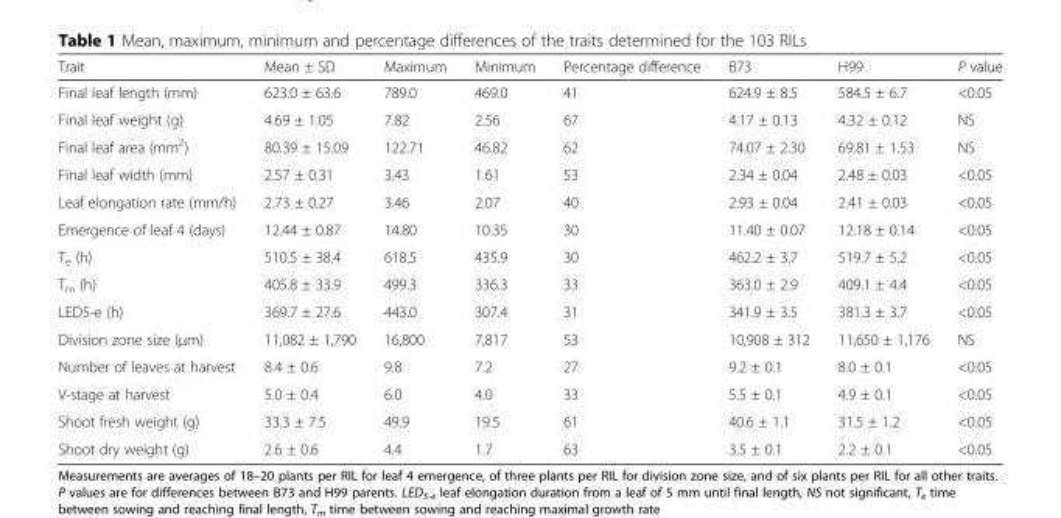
<table><thead><tr><td>Trait</td><td>Mean ± SD</td><td>Maximum</td><td>Minimum</td><td>Percentage difference</td><td>B73</td><td>H99</td><td>P value</td></tr></thead><tbody><tr><td>Final leaf length (mm)</td><td>623.0 ± 63.6</td><td>789.0</td><td>469.0</td><td>41</td><td>624.9 ± 8.5</td><td>584.5 ± 6.7</td><td>&lt;0.05</td></tr><tr><td>Final leaf weight (g)</td><td>4.69 ± 1.05</td><td>7.82</td><td>2.56</td><td>67</td><td>4.17 ± 0.13</td><td>4.32 ± 0.12</td><td>NS</td></tr><tr><td>Final leaf area (mm<sup>2</sup>)</td><td>80.39 ± 15.09</td><td>122.71</td><td>46.82</td><td>62</td><td>74.07 ± 2.30</td><td>69.81 ± 1.53</td><td>NS</td></tr><tr><td>Final leaf width (mm)</td><td>2.57 ± 0.31</td><td>3.43</td><td>1.61</td><td>53</td><td>2.34 ± 0.04</td><td>2.48 ± 0.03</td><td>&lt;0.05</td></tr><tr><td>Leaf elongation rate (mm/h)</td><td>2.73 ± 0.27</td><td>3.46</td><td>2.07</td><td>40</td><td>2.93 ± 0.04</td><td>2.41 ± 0.03</td><td>&lt;0.05</td></tr><tr><td>Emergence of leaf 4 (days)</td><td>12.44 ± 0.87</td><td>14.80</td><td>10.35</td><td>30</td><td>11.40 ± 0.07</td><td>12.18 ± 0.14</td><td>&lt;0.05</td></tr><tr><td>T<sub>e</sub> (h)</td><td>510.5 ± 38.4</td><td>618.5</td><td>435.9</td><td>30</td><td>462.2 ± 3.7</td><td>519.7 ± 5.2</td><td>&lt;0.05</td></tr><tr><td>T<sub>m</sub> (h)</td><td>405.8 ± 33.9</td><td>499.3</td><td>336.3</td><td>33</td><td>363.0 ± 2.9</td><td>409.1 ± 4.4</td><td>&lt;0.05</td></tr><tr><td>LED5-e (h)</td><td>369.7 ± 27.6</td><td>443.0</td><td>307.4</td><td>31</td><td>341.9 ± 3.5</td><td>381.3 ± 3.7</td><td>&lt;0.05</td></tr><tr><td>Division zone size (μm)</td><td>11,082 ± 1,790</td><td>16,800</td><td>7,817</td><td>53</td><td>10,908 ± 312</td><td>11,650 ± 1,176</td><td>NS</td></tr><tr><td>Number of leaves at harvest</td><td>8.4 ± 0.6</td><td>9.8</td><td>7.2</td><td>27</td><td>9.2 ± 0.1</td><td>8.0 ± 0.1</td><td>&lt;0.05</td></tr><tr><td>V-stage at harvest</td><td>5.0 ± 0.4</td><td>6.0</td><td>4.0</td><td>33</td><td>5.5 ± 0.1</td><td>4.9 ± 0.1</td><td>&lt;0.05</td></tr><tr><td>Shoot fresh weight (g)</td><td>33.3 ± 7.5</td><td>49.9</td><td>19.5</td><td>61</td><td>40.6 ± 1.1</td><td>31.5 ± 1.2</td><td>&lt;0.05</td></tr><tr><td>Shoot dry weight (g)</td><td>2.6 ± 0.6</td><td>4.4</td><td>1.7</td><td>63</td><td>3.5 ± 0.1</td><td>2.2 ± 0.1</td><td>&lt;0.05</td></tr></tbody></table>